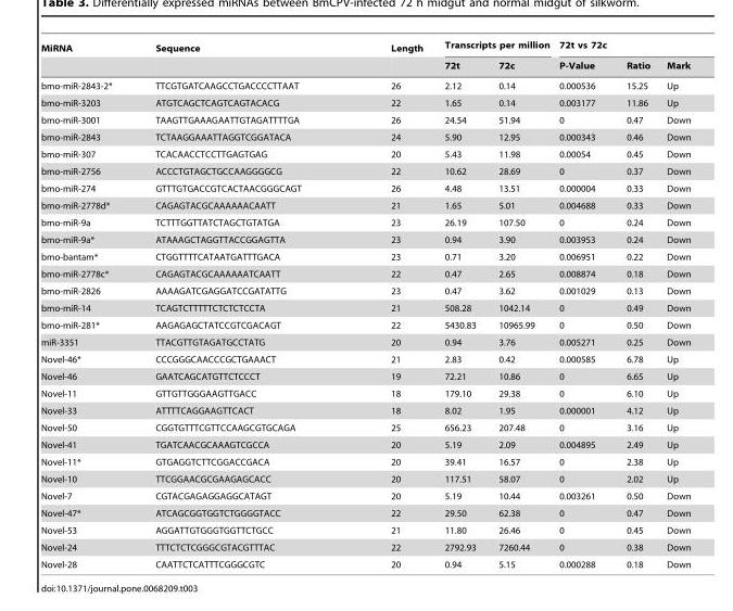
<table><thead><tr><td rowspan="2">MiRNA</td><td rowspan="2">Sequence</td><td rowspan="2">Length</td><td colspan="2">Transcripts per million</td><td colspan="3">72t vs 72c</td></tr><tr><td>72t</td><td>72c</td><td>P-Value</td><td>Ratio</td><td>Mark</td></tr></thead><tbody><tr><td>bmo-miR-2843-2*</td><td>TTCGTGATCAAGCCTGACCCCTTAAT</td><td>26</td><td>2.12</td><td>0.14</td><td>0.000536</td><td>15.25</td><td>Up</td></tr><tr><td>bmo-miR-3203</td><td>ATGTCAGCTCAGTCAGTACACG</td><td>22</td><td>1.65</td><td>0.14</td><td>0.003177</td><td>11.86</td><td>Up</td></tr><tr><td>bmo-miR-3001</td><td>TAAGTTGAAAGAATTGTAGATTTTGA</td><td>26</td><td>24.54</td><td>51.94</td><td>0</td><td>0.47</td><td>Down</td></tr><tr><td>bmo-miR-2843</td><td>TCTAAGGAAATTAGGTCGGATACA</td><td>24</td><td>5.90</td><td>12.95</td><td>0.000343</td><td>0.46</td><td>Down</td></tr><tr><td>bmo-miR-307</td><td>TCACAACCTCCTTGAGTGAG</td><td>20</td><td>5.43</td><td>11.98</td><td>0.00054</td><td>0.45</td><td>Down</td></tr><tr><td>bmo-miR-2756</td><td>ACCCTGTAGCTGCCAAGGGGCG</td><td>22</td><td>10.62</td><td>28.69</td><td>0</td><td>0.37</td><td>Down</td></tr><tr><td>bmo-miR-274</td><td>GTTTGTGACCGTCACTAACGGGCAGT</td><td>26</td><td>4.48</td><td>13.51</td><td>0.000004</td><td>0.33</td><td>Down</td></tr><tr><td>bmo-miR-2778d*</td><td>CAGAGTACGCAAAAAACAATT</td><td>21</td><td>1.65</td><td>5.01</td><td>0.004688</td><td>0.33</td><td>Down</td></tr><tr><td>bmo-miR-9a</td><td>TCTTTGGTTATCTAGCTGTATGA</td><td>23</td><td>26.19</td><td>107.50</td><td>0</td><td>0.24</td><td>Down</td></tr><tr><td>bmo-miR-9a*</td><td>ATAAAGCTAGGTTACCGGAGTTA</td><td>23</td><td>0.94</td><td>3.90</td><td>0.003953</td><td>0.24</td><td>Down</td></tr><tr><td>bmo-bantam*</td><td>CTGGTTTTCATAATGATTTGACA</td><td>23</td><td>0.71</td><td>3.20</td><td>0.006951</td><td>0.22</td><td>Down</td></tr><tr><td>bmo-miR-2778c*</td><td>CAGAGTACGCAAAAAATCAATT</td><td>22</td><td>0.47</td><td>2.65</td><td>0.008874</td><td>0.18</td><td>Down</td></tr><tr><td>bmo-miR-2826</td><td>AAAAGATCGAGGATCCGATATTG</td><td>23</td><td>0.47</td><td>3.62</td><td>0.001029</td><td>0.13</td><td>Down</td></tr><tr><td>bmo-miR-14</td><td>TCAGTCTTTTTCTCTCTCCTA</td><td>21</td><td>508.28</td><td>1042.14</td><td>0</td><td>0.49</td><td>Down</td></tr><tr><td>bmo-miR-281*</td><td>AAGAGAGCTATCCGTCGACAGT</td><td>22</td><td>5430.83</td><td>10965.99</td><td>0</td><td>0.50</td><td>Down</td></tr><tr><td>miR-3351</td><td>TTACGTTGTAGATGCCTATG</td><td>20</td><td>0.94</td><td>3.76</td><td>0.005271</td><td>0.25</td><td>Down</td></tr><tr><td>Novel-46*</td><td>CCCGGGCAACCCGCTGAAACT</td><td>21</td><td>2.83</td><td>0.42</td><td>0.000585</td><td>6.78</td><td>Up</td></tr><tr><td>Novel-46</td><td>GAATCAGCATGTTCTCCCT</td><td>19</td><td>72.21</td><td>10.86</td><td>0</td><td>6.65</td><td>Up</td></tr><tr><td>Novel-11</td><td>GTTGTTGGGAAGTTGACC</td><td>18</td><td>179.10</td><td>29.38</td><td>0</td><td>6.10</td><td>Up</td></tr><tr><td>Novel-33</td><td>ATTTTCAGGAAGTTCACT</td><td>18</td><td>8.02</td><td>1.95</td><td>0.000001</td><td>4.12</td><td>Up</td></tr><tr><td>Novel-50</td><td>CGGTGTTTCGTTCCAAGCGTGCAGA</td><td>25</td><td>656.23</td><td>207.48</td><td>0</td><td>3.16</td><td>Up</td></tr><tr><td>Novel-41</td><td>TGATCAACGCAAAGTCGCCA</td><td>20</td><td>5.19</td><td>2.09</td><td>0.004895</td><td>2.49</td><td>Up</td></tr><tr><td>Novel-11*</td><td>GTGAGGTCTTCGGACCGACA</td><td>20</td><td>39.41</td><td>16.57</td><td>0</td><td>2.38</td><td>Up</td></tr><tr><td>Novel-10</td><td>TTCGGAACGCGAAGAGCACC</td><td>20</td><td>117.51</td><td>58.07</td><td>0</td><td>2.02</td><td>Up</td></tr><tr><td>Novel-7</td><td>CGTACGAGAGGAGGCATAGT</td><td>20</td><td>5.19</td><td>10.44</td><td>0.003261</td><td>0.50</td><td>Down</td></tr><tr><td>Novel-47*</td><td>ATCAGCGGTGGTCTGGGGTACC</td><td>22</td><td>29.50</td><td>62.38</td><td>0</td><td>0.47</td><td>Down</td></tr><tr><td>Novel-53</td><td>AGGATTGTGGGTGGTTCTGCC</td><td>21</td><td>11.80</td><td>26.46</td><td>0</td><td>0.45</td><td>Down</td></tr><tr><td>Novel-24</td><td>TTTCTCTCGGGCGTACGTTTAC</td><td>22</td><td>2792.93</td><td>7260.44</td><td>0</td><td>0.38</td><td>Down</td></tr><tr><td>Novel-28</td><td>CAATTCTCATTTCGGGCGTC</td><td>20</td><td>0.94</td><td>5.15</td><td>0.000288</td><td>0.18</td><td>Down</td></tr></tbody></table>